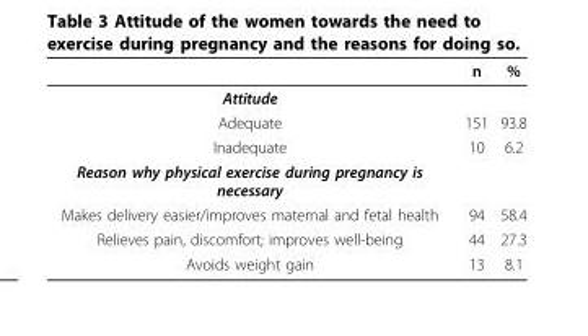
<table><thead><tr><td></td><td>n</td><td>%</td></tr></thead><tbody><tr><td colspan="3">Attitude</td></tr><tr><td>Adequate</td><td>151</td><td>93.8</td></tr><tr><td>Inadequate</td><td>10</td><td>6.2</td></tr><tr><td colspan="3">Reason why physical exercise during pregnancy is necessary</td></tr><tr><td>Makes delivery easier/improves maternal and fetal health</td><td>94</td><td>58.4</td></tr><tr><td>Relieves pain, discomfort; improves well-being</td><td>44</td><td>27.3</td></tr><tr><td>Avoids weight gain</td><td>13</td><td>8.1</td></tr></tbody></table>